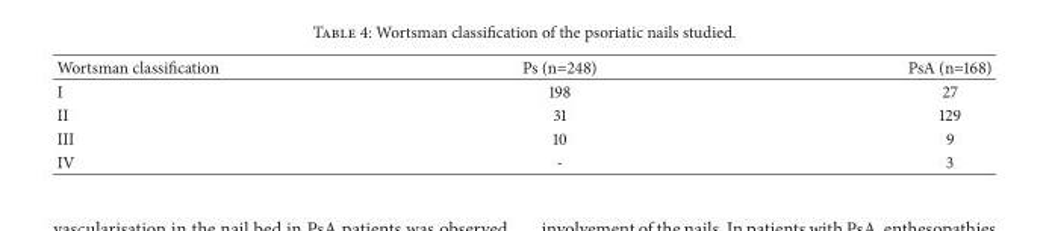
<table><thead><tr><td>Wortsman classification</td><td>Ps (n=248)</td><td>PsA (n=168)</td></tr></thead><tbody><tr><td>I</td><td>198</td><td>27</td></tr><tr><td>II</td><td>31</td><td>129</td></tr><tr><td>III</td><td>10</td><td>9</td></tr><tr><td>IV</td><td>-</td><td>3</td></tr></tbody></table>